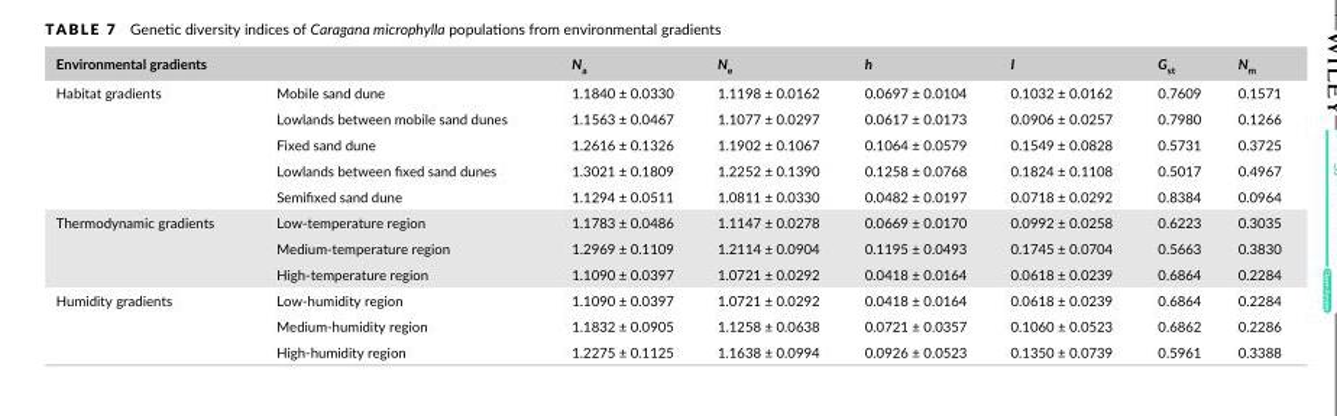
<table><thead><tr><td>Environmental gradients</td><td></td><td>N<sub>a</sub></td><td>N<sub>e</sub></td><td>h</td><td>I</td><td>G<sub>st</sub></td><td>N<sub>m</sub></td></tr></thead><tbody><tr><td rowspan="5">Habitat gradients</td><td>Mobile sand dune</td><td>1.1840 ± 0.0330</td><td>1.1198 ± 0.0162</td><td>0.0697 ± 0.0104</td><td>0.1032 ± 0.0162</td><td>0.7609</td><td>0.1571</td></tr><tr><td>Lowlands between mobile sand dunes</td><td>1.1563 ± 0.0467</td><td>1.1077 ± 0.0297</td><td>0.0617 ± 0.0173</td><td>0.0906 ± 0.0257</td><td>0.7980</td><td>0.1266</td></tr><tr><td>Fixed sand dune</td><td>1.2616 ± 0.1326</td><td>1.1902 ± 0.1067</td><td>0.1064 ± 0.0579</td><td>0.1549 ± 0.0828</td><td>0.5731</td><td>0.3725</td></tr><tr><td>Lowlands between fixed sand dunes</td><td>1.3021 ± 0.1809</td><td>1.2252 ± 0.1390</td><td>0.1258 ± 0.0768</td><td>0.1824 ± 0.1108</td><td>0.5017</td><td>0.4967</td></tr><tr><td>Semifixed sand dune</td><td>1.1294 ± 0.0511</td><td>1.0811 ± 0.0330</td><td>0.0482 ± 0.0197</td><td>0.0718 ± 0.0292</td><td>0.8384</td><td>0.0964</td></tr><tr><td rowspan="3">Thermodynamic gradients</td><td>Low- temperature region</td><td>1.1783 ± 0.0486</td><td>1.1147 ± 0.0278</td><td>0.0669 ± 0.0170</td><td>0.0992 ± 0.0258</td><td>0.6223</td><td>0.3035</td></tr><tr><td>Medium- temperature region</td><td>1.2969 ± 0.1109</td><td>1.2114 ± 0.0904</td><td>0.1195 ± 0.0493</td><td>0.1745 ± 0.0704</td><td>0.5663</td><td>0.3830</td></tr><tr><td>High- temperature region</td><td>1.1090 ± 0.0397</td><td>1.0721 ± 0.0292</td><td>0.0418 ± 0.0164</td><td>0.0618 ± 0.0239</td><td>0.6864</td><td>0.2284</td></tr><tr><td rowspan="3">Humidity gradients</td><td>Low- humidity region</td><td>1.1090 ± 0.0397</td><td>1.0721 ± 0.0292</td><td>0.0418 ± 0.0164</td><td>0.0618 ± 0.0239</td><td>0.6864</td><td>0.2284</td></tr><tr><td>Medium- humidity region</td><td>1.1832 ± 0.0905</td><td>1.1258 ± 0.0638</td><td>0.0721 ± 0.0357</td><td>0.1060 ± 0.0523</td><td>0.6862</td><td>0.2286</td></tr><tr><td>High- humidity region</td><td>1.2275 ± 0.1125</td><td>1.1638 ± 0.0994</td><td>0.0926 ± 0.0523</td><td>0.1350 ± 0.0739</td><td>0.5961</td><td>0.3388</td></tr></tbody></table>